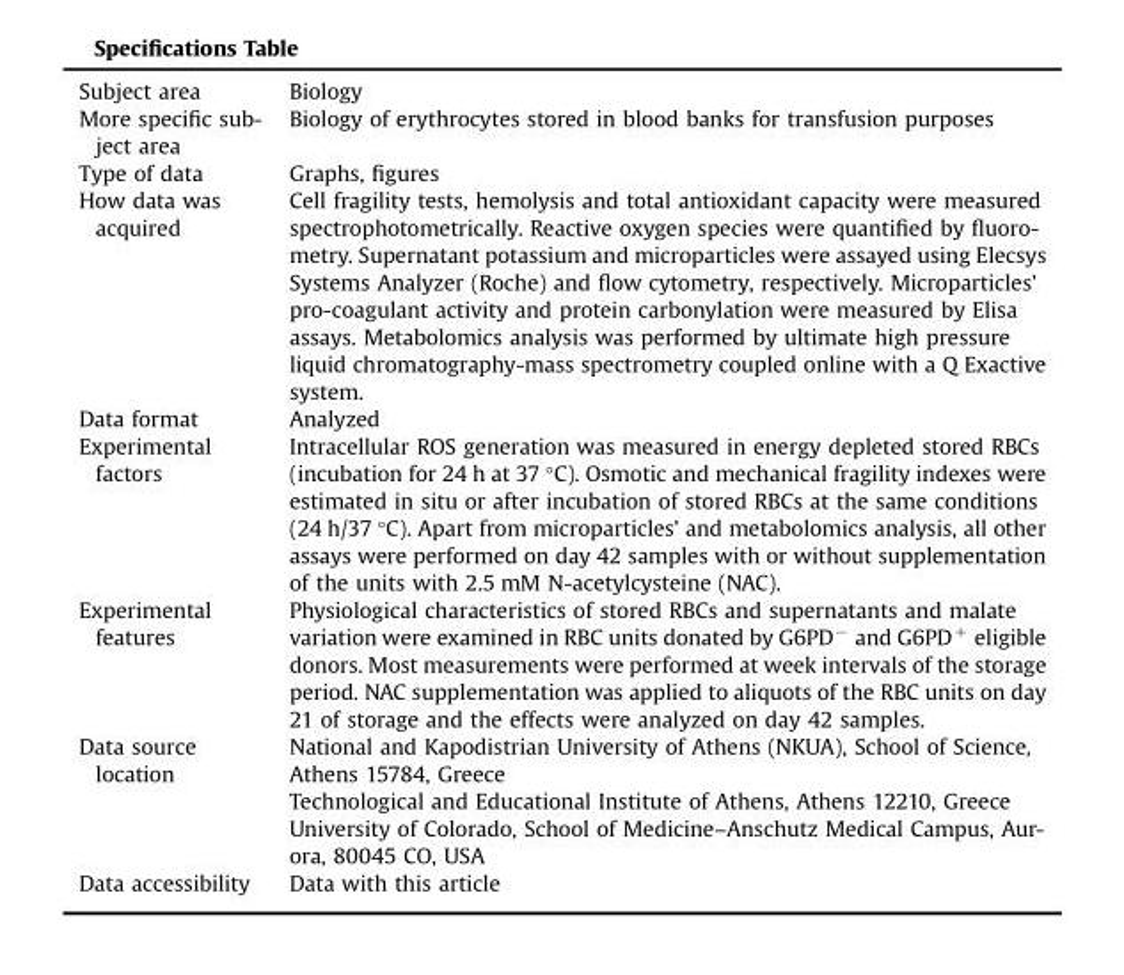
<table><tbody><tr><td>Subject area</td><td>Biology</td></tr><tr><td>More specific sub- ject area</td><td>Biology of erythrocytes stored in blood banks for transfusion purposes</td></tr><tr><td>Type of data</td><td>Graphs, figures</td></tr><tr><td>How data was acquired</td><td>Cell fragility tests, hemolysis and total antioxidant capacity were measured spectrophotometrically. Reactive oxygen species were quantified by fluoro- metry. Supernatant potassium and microparticles were assayed using Elecsys Systems Analyzer (Roche) and flow cytometry, respectively. Microparticles’ pro-coagulant activity and protein carbonylation were measured by Elisa assays. Metabolomics analysis was performed by ultimate high pressure liquid chromatography-mass spectrometry coupled online with a Q Exactive system.</td></tr><tr><td>Data format</td><td>Analyzed</td></tr><tr><td>Experimental factors</td><td>Intracellular ROS generation was measured in energy depleted stored RBCs (incubation for 24 h at 37 °C). Osmotic and mechanical fragility indexes were estimated in situ or after incubation of stored RBCs at the same conditions (24 h/37 °C). Apart from microparticles’ and metabolomics analysis, all other assays were performed on day 42 samples with or without supplementation of the units with 2.5 mM N-acetylcysteine (NAC).</td></tr><tr><td>Experimental features</td><td>Physiological characteristics of stored RBCs and supernatants and malate variation were examined in RBC units donated by G6PD<sup>−</sup> and G6PD<sup>+</sup> eligible donors. Most measurements were performed at week intervals of the storage period. NAC supplementation was applied to aliquots of the RBC units on day 21 of storage and the effects were analyzed on day 42 samples.</td></tr><tr><td rowspan="3">Data source location</td><td>National and Kapodistrian University of Athens (NKUA), School of Science, Athens 15784, Greece</td></tr><tr><td>Technological and Educational Institute of Athens, Athens 12210, Greece</td></tr><tr><td>University of Colorado, School of Medicine–Anschutz Medical Campus, Aur- ora, 80045 CO, USA</td></tr><tr><td>Data accessibility</td><td>Data with this article</td></tr></tbody></table>